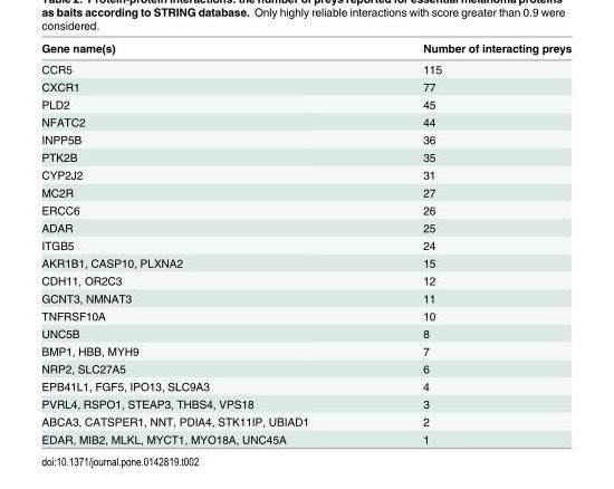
<table><thead><tr><td>Gene name(s)</td><td>Number of interacting preys</td></tr></thead><tbody><tr><td>CCR5</td><td>115</td></tr><tr><td>CXCR1</td><td>77</td></tr><tr><td>PLD2</td><td>45</td></tr><tr><td>NFATC2</td><td>44</td></tr><tr><td>INPP5B</td><td>36</td></tr><tr><td>PTK2B</td><td>35</td></tr><tr><td>CYP2J2</td><td>31</td></tr><tr><td>MC2R</td><td>27</td></tr><tr><td>ERCC6</td><td>26</td></tr><tr><td>ADAR</td><td>25</td></tr><tr><td>ITGB5</td><td>24</td></tr><tr><td>AKR1B1, CASP10, PLXNA2</td><td>15</td></tr><tr><td>CDH11, OR2C3</td><td>12</td></tr><tr><td>GCNT3, NMNAT3</td><td>11</td></tr><tr><td>TNFRSF10A</td><td>10</td></tr><tr><td>UNC5B</td><td>8</td></tr><tr><td>BMP1, HBB, MYH9</td><td>7</td></tr><tr><td>NRP2, SLC27A5</td><td>6</td></tr><tr><td>EPB41L1, FGF5, IPO13, SLC9A3</td><td>4</td></tr><tr><td>PVRL4, RSPO1, STEAP3, THBS4, VPS18</td><td>3</td></tr><tr><td>ABCA3, CATSPER1, NNT, PDIA4, STK11IP, UBIAD1</td><td>2</td></tr><tr><td>EDAR, MIB2, MLKL, MYCT1, MYO18A, UNC45A</td><td>1</td></tr></tbody></table>